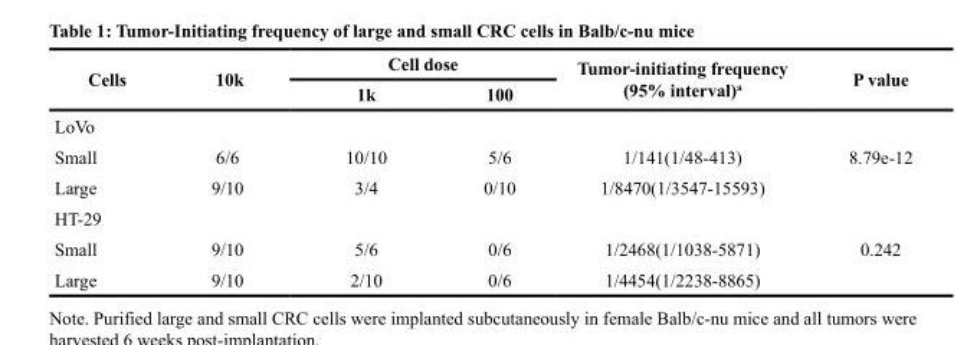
<table><thead><tr><td rowspan="2">Cells</td><td rowspan="2">10k</td><td colspan="2">Cell dose</td><td rowspan="2">Tumor-initiating frequency (95% interval)<sup>a</sup></td><td rowspan="2">P value</td></tr><tr><td>1k</td><td>100</td></tr></thead><tbody><tr><td colspan="6">LoVo</td></tr><tr><td>Small</td><td>6/6</td><td>10/10</td><td>5/6</td><td>1/141(1/48-413)</td><td>8.79e-12</td></tr><tr><td>Large</td><td>9/10</td><td>3/4</td><td>0/10</td><td>1/8470(1/3547-15593)</td><td></td></tr><tr><td colspan="6">HT-29</td></tr><tr><td>Small</td><td>9/10</td><td>5/6</td><td>0/6</td><td>1/2468(1/1038-5871)</td><td>0.242</td></tr><tr><td>Large</td><td>9/10</td><td>2/10</td><td>0/6</td><td>1/4454(1/2238-8865)</td><td></td></tr></tbody></table>